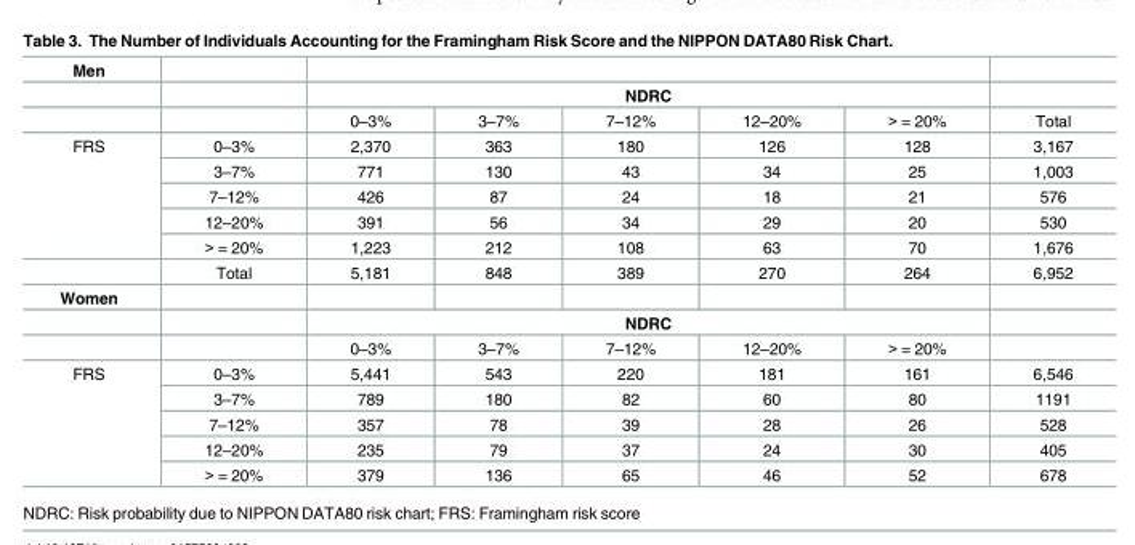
<table><tbody><tr><td colspan="8">Men</td></tr><tr><td></td><td></td><td colspan="5">NDRC</td><td></td></tr><tr><td></td><td></td><td>0–3%</td><td>3–7%</td><td>7–12%</td><td>12–20%</td><td>&gt; = 20%</td><td>Total</td></tr><tr><td rowspan="6">FRS</td><td>0–3%</td><td>2,370</td><td>363</td><td>180</td><td>126</td><td>128</td><td>3,167</td></tr><tr><td>3–7%</td><td>771</td><td>130</td><td>43</td><td>34</td><td>25</td><td>1,003</td></tr><tr><td>7–12%</td><td>426</td><td>87</td><td>24</td><td>18</td><td>21</td><td>576</td></tr><tr><td>12–20%</td><td>391</td><td>56</td><td>34</td><td>29</td><td>20</td><td>530</td></tr><tr><td>&gt; = 20%</td><td>1,223</td><td>212</td><td>108</td><td>63</td><td>70</td><td>1,676</td></tr><tr><td>Total</td><td>5,181</td><td>848</td><td>389</td><td>270</td><td>264</td><td>6,952</td></tr><tr><td colspan="8">Women</td></tr><tr><td></td><td></td><td colspan="5">NDRC</td><td></td></tr><tr><td></td><td></td><td>0–3%</td><td>3–7%</td><td>7–12%</td><td>12–20%</td><td>&gt; = 20%</td><td></td></tr><tr><td rowspan="5">FRS</td><td>0–3%</td><td>5,441</td><td>543</td><td>220</td><td>181</td><td>161</td><td>6,546</td></tr><tr><td>3–7%</td><td>789</td><td>180</td><td>82</td><td>60</td><td>80</td><td>1191</td></tr><tr><td>7–12%</td><td>357</td><td>78</td><td>39</td><td>28</td><td>26</td><td>528</td></tr><tr><td>12–20%</td><td>235</td><td>79</td><td>37</td><td>24</td><td>30</td><td>405</td></tr><tr><td>&gt; = 20%</td><td>379</td><td>136</td><td>65</td><td>46</td><td>52</td><td>678</td></tr></tbody></table>